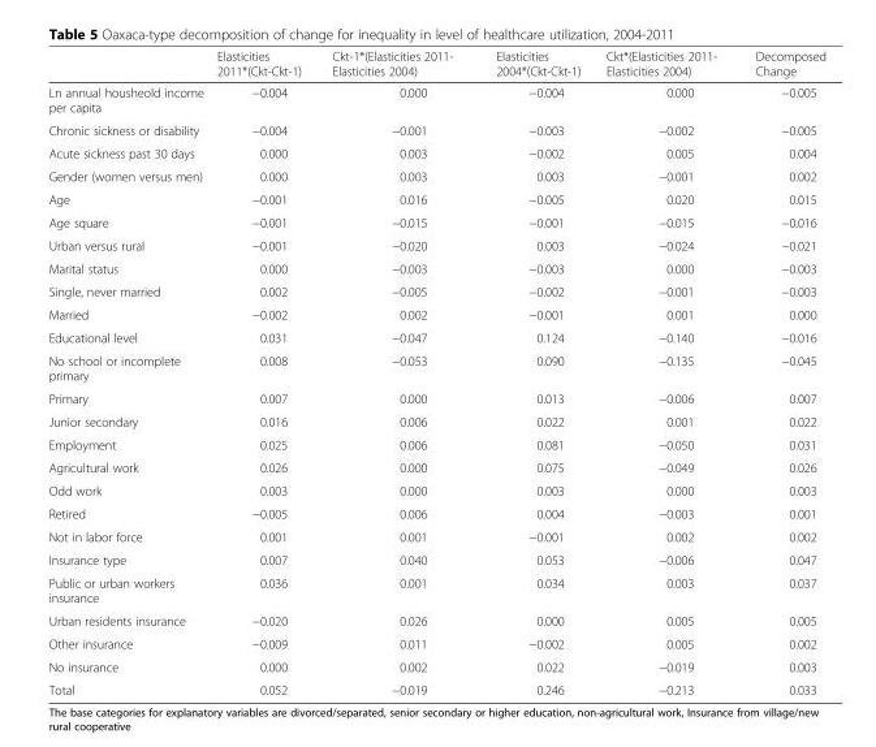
<table><thead><tr><td></td><td>Elasticities 2011*(Ckt-Ckt-1)</td><td>Ckt-1*(Elasticities 2011- Elasticities 2004)</td><td>Elasticities 2004*(Ckt-Ckt-1)</td><td>Ckt*(Elasticities 2011- Elasticities 2004)</td><td>Decomposed Change</td></tr></thead><tbody><tr><td>Ln annual housheold income per capita</td><td>−0.004</td><td>0.000</td><td>−0.004</td><td>0.000</td><td>−0.005</td></tr><tr><td>Chronic sickness or disability</td><td>−0.004</td><td>−0.001</td><td>−0.003</td><td>−0.002</td><td>−0.005</td></tr><tr><td>Acute sickness past 30 days</td><td>0.000</td><td>0.003</td><td>−0.002</td><td>0.005</td><td>0.004</td></tr><tr><td>Gender (women versus men)</td><td>0.000</td><td>0.003</td><td>0.003</td><td>−0.001</td><td>0.002</td></tr><tr><td>Age</td><td>−0.001</td><td>0.016</td><td>−0.005</td><td>0.020</td><td>0.015</td></tr><tr><td>Age square</td><td>−0.001</td><td>−0.015</td><td>−0.001</td><td>−0.015</td><td>−0.016</td></tr><tr><td>Urban versus rural</td><td>−0.001</td><td>−0.020</td><td>0.003</td><td>−0.024</td><td>−0.021</td></tr><tr><td>Marital status</td><td>0.000</td><td>−0.003</td><td>−0.003</td><td>0.000</td><td>−0.003</td></tr><tr><td>Single, never married</td><td>0.002</td><td>−0.005</td><td>−0.002</td><td>−0.001</td><td>−0.003</td></tr><tr><td>Married</td><td>−0.002</td><td>0.002</td><td>−0.001</td><td>0.001</td><td>0.000</td></tr><tr><td>Educational level</td><td>0.031</td><td>−0.047</td><td>0.124</td><td>−0.140</td><td>−0.016</td></tr><tr><td>No school or incomplete primary</td><td>0.008</td><td>−0.053</td><td>0.090</td><td>−0.135</td><td>−0.045</td></tr><tr><td>Primary</td><td>0.007</td><td>0.000</td><td>0.013</td><td>−0.006</td><td>0.007</td></tr><tr><td>Junior secondary</td><td>0.016</td><td>0.006</td><td>0.022</td><td>0.001</td><td>0.022</td></tr><tr><td>Employment</td><td>0.025</td><td>0.006</td><td>0.081</td><td>−0.050</td><td>0.031</td></tr><tr><td>Agricultural work</td><td>0.026</td><td>0.000</td><td>0.075</td><td>−0.049</td><td>0.026</td></tr><tr><td>Odd work</td><td>0.003</td><td>0.000</td><td>0.003</td><td>0.000</td><td>0.003</td></tr><tr><td>Retired</td><td>−0.005</td><td>0.006</td><td>0.004</td><td>−0.003</td><td>0.001</td></tr><tr><td>Not in labor force</td><td>0.001</td><td>0.001</td><td>−0.001</td><td>0.002</td><td>0.002</td></tr><tr><td>Insurance type</td><td>0.007</td><td>0.040</td><td>0.053</td><td>−0.006</td><td>0.047</td></tr><tr><td>Public or urban workers insurance</td><td>0.036</td><td>0.001</td><td>0.034</td><td>0.003</td><td>0.037</td></tr><tr><td>Urban residents insurance</td><td>−0.020</td><td>0.026</td><td>0.000</td><td>0.005</td><td>0.005</td></tr><tr><td>Other insurance</td><td>−0.009</td><td>0.011</td><td>−0.002</td><td>0.005</td><td>0.002</td></tr><tr><td>No insurance</td><td>0.000</td><td>0.002</td><td>0.022</td><td>−0.019</td><td>0.003</td></tr><tr><td>Total</td><td>0.052</td><td>−0.019</td><td>0.246</td><td>−0.213</td><td>0.033</td></tr></tbody></table>